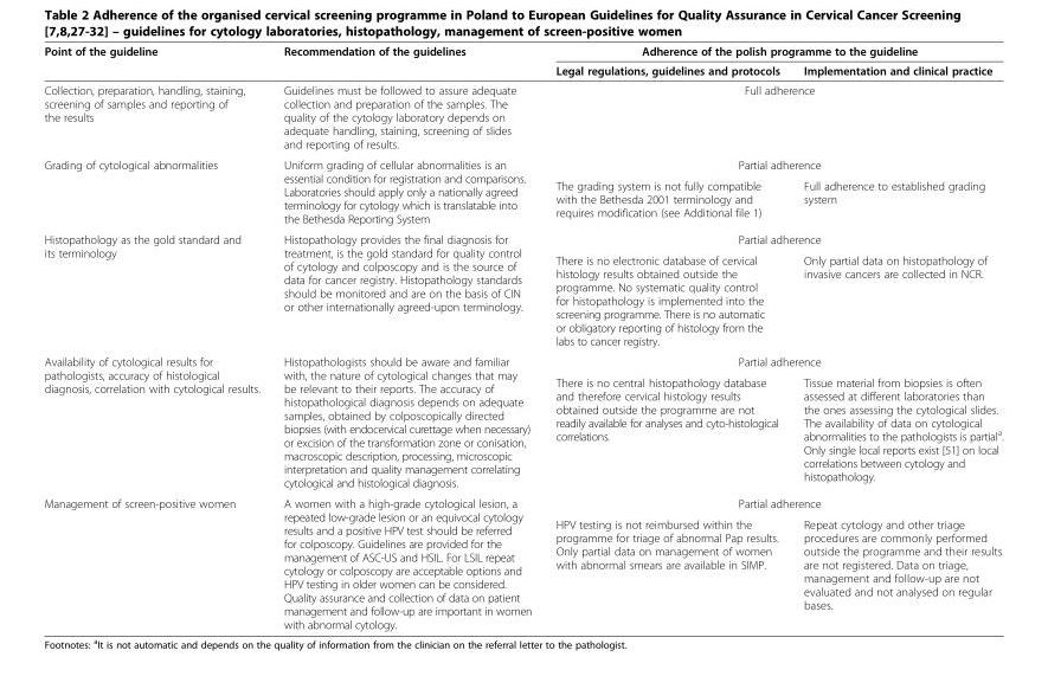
<table><thead><tr><td rowspan="2">Point of the guideline</td><td rowspan="2">Recommendation of the guidelines</td><td colspan="2">Adherence of the polish programme to the guideline</td></tr><tr><td>Legal regulations, guidelines and protocols</td><td>Implementation and clinical practice</td></tr></thead><tbody><tr><td>Collection, preparation, handling, staining, screening of samples and reporting of the results</td><td>Guidelines must be followed to assure adequate collection and preparation of the samples. The quality of the cytology laboratory depends on adequate handling, staining, screening of slides and reporting of results.</td><td colspan="2">Full adherence</td></tr><tr><td rowspan="2">Grading of cytological abnormalities</td><td rowspan="2">Uniform grading of cellular abnormalities is an essential condition for registration and comparisons. Laboratories should apply only a nationally agreed terminology for cytology which is translatable into the Bethesda Reporting System</td><td colspan="2">Partial adherence</td></tr><tr><td>The grading system is not fully compatible with the Bethesda 2001 terminology and requires modification (see Additional file 1)</td><td>Full adherence to established grading system</td></tr><tr><td rowspan="2">Histopathology as the gold standard and its terminology</td><td rowspan="2">Histopathology provides the final diagnosis for treatment, is the gold standard for quality control of cytology and colposcopy and is the source of data for cancer registry. Histopathology standards should be monitored and are on the basis of CIN or other internationally agreed-upon terminology.</td><td colspan="2">Partial adherence</td></tr><tr><td>There is no electronic database of cervical histology results obtained outside the programme. No systematic quality control for histopathology is implemented into the screening programme. There is no automatic or obligatory reporting of histology from the labs to cancer registry.</td><td>Only partial data on histopathology of invasive cancers are collected in NCR.</td></tr><tr><td rowspan="2">Availability of cytological results for pathologists, accuracy of histological diagnosis, correlation with cytological results.</td><td rowspan="2">Histopathologists should be aware and familiar with, the nature of cytological changes that may be relevant to their reports. The accuracy of histopathological diagnosis depends on adequate samples, obtained by colposcopically directed biopsies (with endocervical curettage when necessary) or excision of the transformation zone or conisation, macroscopic description, processing, microscopic interpretation and quality management correlating cytological and histological diagnosis.</td><td colspan="2">Partial adherence</td></tr><tr><td>There is no central histopathology database and therefore cervical histology results obtained outside the programme are not readily available for analyses and cyto-histological correlations.</td><td>Tissue material from biopsies is often assessed at different laboratories than the ones assessing the cytological slides. The availability of data on cytological abnormalities to the pathologists is partial<sup>a</sup>. Only single local reports exist [51] on local correlations between cytology and histopathology.</td></tr><tr><td rowspan="2">Management of screen-positive women</td><td rowspan="2">A women with a high-grade cytological lesion, a repeated low-grade lesion or an equivocal cytology results and a positive HPV test should be referred for colposcopy. Guidelines are provided for the management of ASC-US and HSIL. For LSIL repeat cytology or colposcopy are acceptable options and HPV testing in older women can be considered. Quality assurance and collection of data on patient management and follow-up are important in women with abnormal cytology.</td><td colspan="2">Partial adherence</td></tr><tr><td>HPV testing is not reimbursed within the programme for triage of abnormal Pap results. Only partial data on management of women with abnormal smears are available in SIMP.</td><td>Repeat cytology and other triage procedures are commonly performed outside the programme and their results are not registered. Data on triage, management and follow-up are not evaluated and not analysed on regular bases.</td></tr></tbody></table>